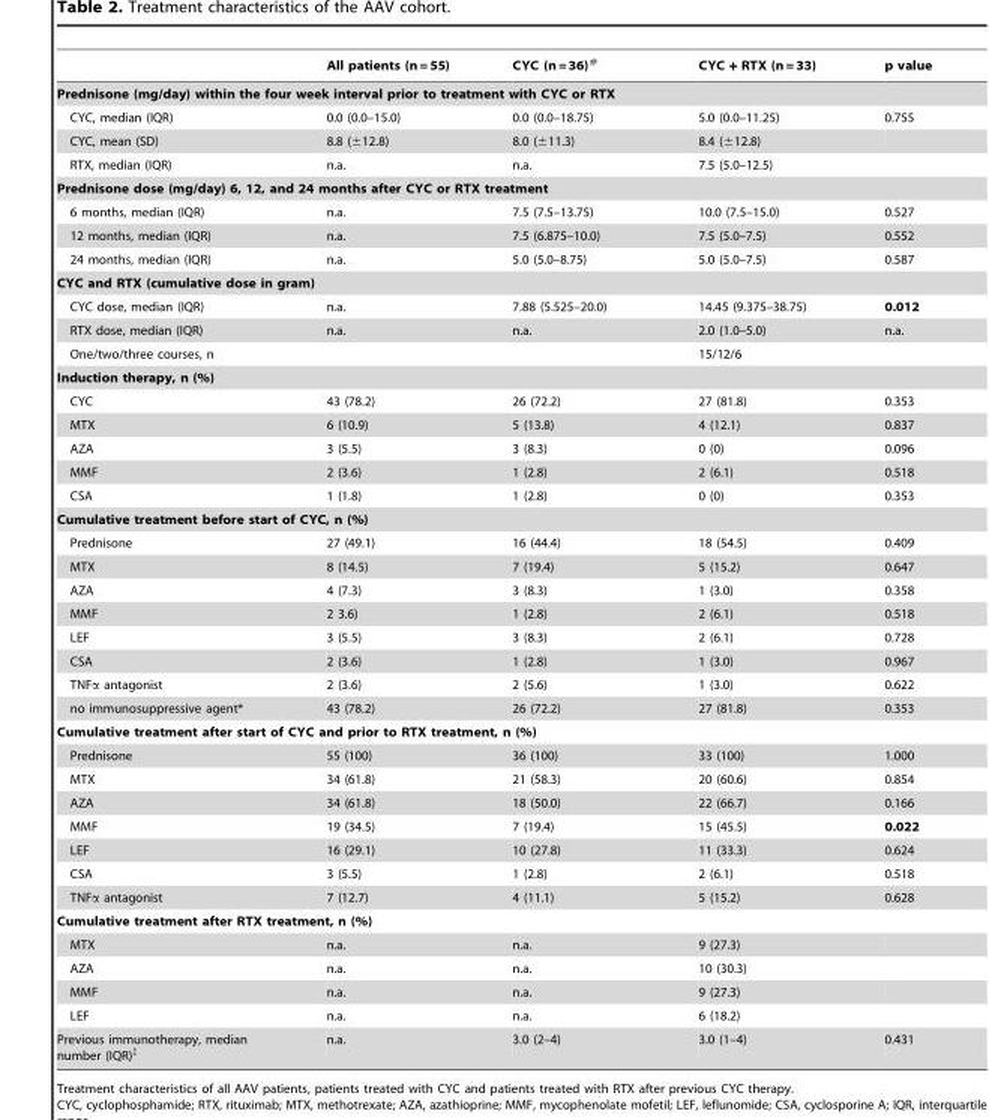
<table><thead><tr><td></td><td>All patients (n = 55)</td><td>CYC (n = 36)#</td><td>CYC + RTX (n = 33)</td><td>p value</td></tr></thead><tbody><tr><td colspan="5">Prednisone (mg/day) within the four week interval prior to treatment with CYC or RTX</td></tr><tr><td>CYC, median (IQR)</td><td>0.0 (0.0–15.0)</td><td>0.0 (0.0–18.75)</td><td>5.0 (0.0–11.25)</td><td>0.755</td></tr><tr><td>CYC, mean (SD)</td><td>8.8 (±12.8)</td><td>8.0 (±11.3)</td><td>8.4 (±12.8)</td><td></td></tr><tr><td>RTX, median (IQR)</td><td>n.a.</td><td>n.a.</td><td>7.5 (5.0–12.5)</td><td></td></tr><tr><td colspan="5">Prednisone dose (mg/day) 6, 12, and 24 months after CYC or RTX treatment</td></tr><tr><td>6 months, median (IQR)</td><td>n.a.</td><td>7.5 (7.5–13.75)</td><td>10.0 (7.5–15.0)</td><td>0.527</td></tr><tr><td>12 months, median (IQR)</td><td>n.a.</td><td>7.5 (6.875–10.0)</td><td>7.5 (5.0–7.5)</td><td>0.552</td></tr><tr><td>24 months, median (IQR)</td><td>n.a.</td><td>5.0 (5.0–8.75)</td><td>5.0 (5.0–7.5)</td><td>0.587</td></tr><tr><td colspan="5">CYC and RTX (cumulative dose in gram)</td></tr><tr><td>CYC dose, median (IQR)</td><td>n.a.</td><td>7.88 (5.525–20.0)</td><td>14.45 (9.375–38.75)</td><td>0.012</td></tr><tr><td>RTX dose, median (IQR)</td><td>n.a.</td><td>n.a.</td><td>2.0 (1.0–5.0)</td><td>n.a.</td></tr><tr><td>One/two/three courses, n</td><td></td><td></td><td>15/12/6</td><td></td></tr><tr><td colspan="5">Induction therapy, n (%)</td></tr><tr><td>CYC</td><td>43 (78.2)</td><td>26 (72.2)</td><td>27 (81.8)</td><td>0.353</td></tr><tr><td>MTX</td><td>6 (10.9)</td><td>5 (13.8)</td><td>4 (12.1)</td><td>0.837</td></tr><tr><td>AZA</td><td>3 (5.5)</td><td>3 (8.3)</td><td>0 (0)</td><td>0.096</td></tr><tr><td>MMF</td><td>2 (3.6)</td><td>1 (2.8)</td><td>2 (6.1)</td><td>0.518</td></tr><tr><td>CSA</td><td>1 (1.8)</td><td>1 (2.8)</td><td>0 (0)</td><td>0.353</td></tr><tr><td colspan="5">Cumulative treatment before start of CYC, n (%)</td></tr><tr><td>Prednisone</td><td>27 (49.1)</td><td>16 (44.4)</td><td>18 (54.5)</td><td>0.409</td></tr><tr><td>MTX</td><td>8 (14.5)</td><td>7 (19.4)</td><td>5 (15.2)</td><td>0.647</td></tr><tr><td>AZA</td><td>4 (7.3)</td><td>3 (8.3)</td><td>1 (3.0)</td><td>0.358</td></tr><tr><td>MMF</td><td>2 3.6)</td><td>1 (2.8)</td><td>2 (6.1)</td><td>0.518</td></tr><tr><td>LEF</td><td>3 (5.5)</td><td>3 (8.3)</td><td>2 (6.1)</td><td>0.728</td></tr><tr><td>CSA</td><td>2 (3.6)</td><td>1 (2.8)</td><td>1 (3.0)</td><td>0.967</td></tr><tr><td>TNFα antagonist</td><td>2 (3.6)</td><td>2 (5.6)</td><td>1 (3.0)</td><td>0.622</td></tr><tr><td>no immunosuppressive agent*</td><td>43 (78.2)</td><td>26 (72.2)</td><td>27 (81.8)</td><td>0.353</td></tr><tr><td colspan="5">Cumulative treatment after start of CYC and prior to RTX treatment, n (%)</td></tr><tr><td>Prednisone</td><td>55 (100)</td><td>36 (100)</td><td>33 (100)</td><td>1.000</td></tr><tr><td>MTX</td><td>34 (61.8)</td><td>21 (58.3)</td><td>20 (60.6)</td><td>0.854</td></tr><tr><td>AZA</td><td>34 (61.8)</td><td>18 (50.0)</td><td>22 (66.7)</td><td>0.166</td></tr><tr><td>MMF</td><td>19 (34.5)</td><td>7 (19.4)</td><td>15 (45.5)</td><td>0.022</td></tr><tr><td>LEF</td><td>16 (29.1)</td><td>10 (27.8)</td><td>11 (33.3)</td><td>0.624</td></tr><tr><td>CSA</td><td>3 (5.5)</td><td>1 (2.8)</td><td>2 (6.1)</td><td>0.518</td></tr><tr><td>TNFα antagonist</td><td>7 (12.7)</td><td>4 (11.1)</td><td>5 (15.2)</td><td>0.628</td></tr><tr><td colspan="5">Cumulative treatment after RTX treatment, n (%)</td></tr><tr><td>MTX</td><td>n.a.</td><td>n.a.</td><td>9 (27.3)</td><td></td></tr><tr><td>AZA</td><td>n.a.</td><td>n.a.</td><td>10 (30.3)</td><td></td></tr><tr><td>MMF</td><td>n.a.</td><td>n.a.</td><td>9 (27.3)</td><td></td></tr><tr><td>LEF</td><td>n.a.</td><td>n.a.</td><td>6 (18.2)</td><td></td></tr><tr><td>Previous immunotherapy, median number (IQR)‡</td><td>n.a.</td><td>3.0 (2–4)</td><td>3.0 (1–4)</td><td>0.431</td></tr></tbody></table>